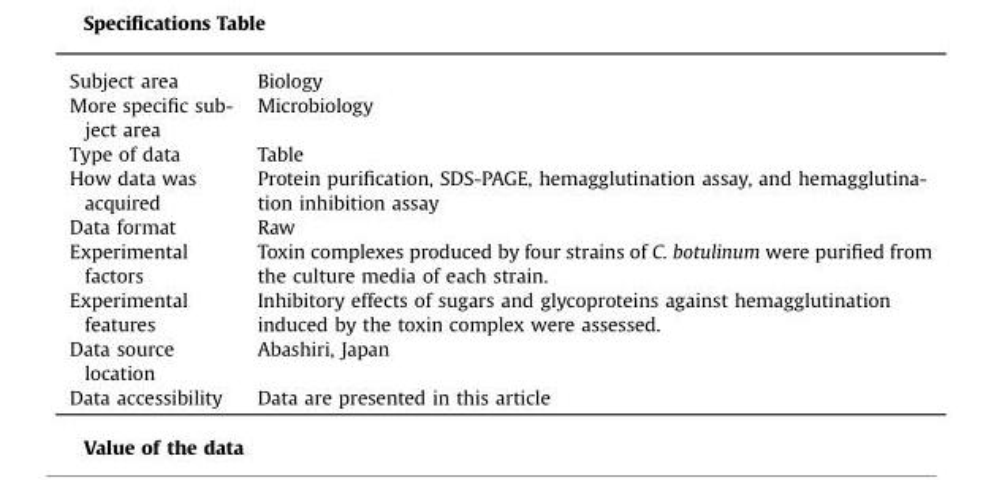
<table><tbody><tr><td>Subject area</td><td>Biology</td></tr><tr><td>More specific sub- ject area</td><td>Microbiology</td></tr><tr><td>Type of data</td><td>Table</td></tr><tr><td>How data was acquired</td><td>Protein purification, SDS-PAGE, hemagglutination assay, and hemagglutina- tion inhibition assay</td></tr><tr><td>Data format</td><td>Raw</td></tr><tr><td>Experimental factors</td><td>Toxin complexes produced by four strains of C. botulinum were purified from the culture media of each strain.</td></tr><tr><td>Experimental features</td><td>Inhibitory effects of sugars and glycoproteins against hemagglutination induced by the toxin complex were assessed.</td></tr><tr><td>Data source location</td><td>Abashiri, Japan</td></tr><tr><td>Data accessibility</td><td>Data are presented in this article</td></tr></tbody></table>